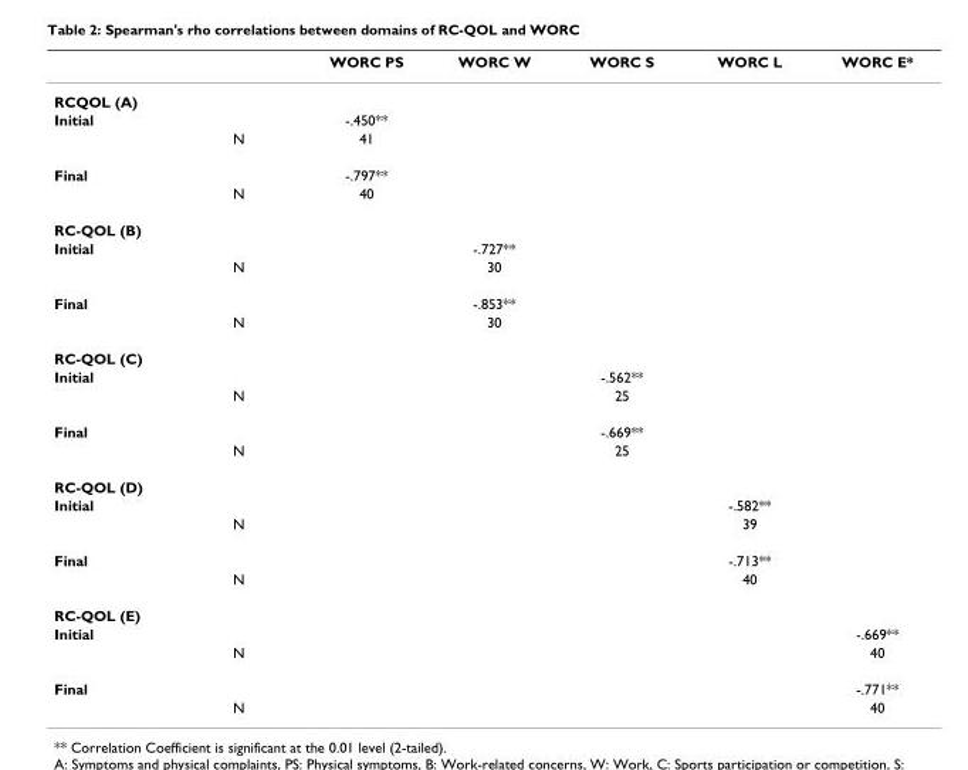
<table><thead><tr><td></td><td></td><td>WORC PS</td><td>WORC W</td><td>WORC S</td><td>WORC L</td><td>WORC E*</td></tr></thead><tbody><tr><td colspan="7">RCQOL (A)</td></tr><tr><td rowspan="2">Initial</td><td></td><td>-.450**</td><td></td><td></td><td></td><td></td></tr><tr><td>N</td><td>41</td><td></td><td></td><td></td><td></td></tr><tr><td rowspan="2">Final</td><td></td><td>-.797**</td><td></td><td></td><td></td><td></td></tr><tr><td>N</td><td>40</td><td></td><td></td><td></td><td></td></tr><tr><td colspan="7">RC-QOL (B)</td></tr><tr><td rowspan="2">Initial</td><td></td><td></td><td>-.727**</td><td></td><td></td><td></td></tr><tr><td>N</td><td></td><td>30</td><td></td><td></td><td></td></tr><tr><td rowspan="2">Final</td><td></td><td></td><td>-.853**</td><td></td><td></td><td></td></tr><tr><td>N</td><td></td><td>30</td><td></td><td></td><td></td></tr><tr><td colspan="7">RC-QOL (C)</td></tr><tr><td rowspan="2">Initial</td><td></td><td></td><td></td><td>-.562**</td><td></td><td></td></tr><tr><td>N</td><td></td><td></td><td>25</td><td></td><td></td></tr><tr><td rowspan="2">Final</td><td></td><td></td><td></td><td>-.669**</td><td></td><td></td></tr><tr><td>N</td><td></td><td></td><td>25</td><td></td><td></td></tr><tr><td colspan="7">RC-QOL (D)</td></tr><tr><td rowspan="2">Initial</td><td></td><td></td><td></td><td></td><td>-.582**</td><td></td></tr><tr><td>N</td><td></td><td></td><td></td><td>39</td><td></td></tr><tr><td rowspan="2">Final</td><td></td><td></td><td></td><td></td><td>-.713**</td><td></td></tr><tr><td>N</td><td></td><td></td><td></td><td>40</td><td></td></tr><tr><td colspan="7">RC-QOL (E)</td></tr><tr><td rowspan="2">Initial</td><td></td><td></td><td></td><td></td><td></td><td>-.669**</td></tr><tr><td>N</td><td></td><td></td><td></td><td></td><td>40</td></tr><tr><td rowspan="2">Final</td><td></td><td></td><td></td><td></td><td></td><td>-.771**</td></tr><tr><td>N</td><td></td><td></td><td></td><td></td><td>40</td></tr></tbody></table>